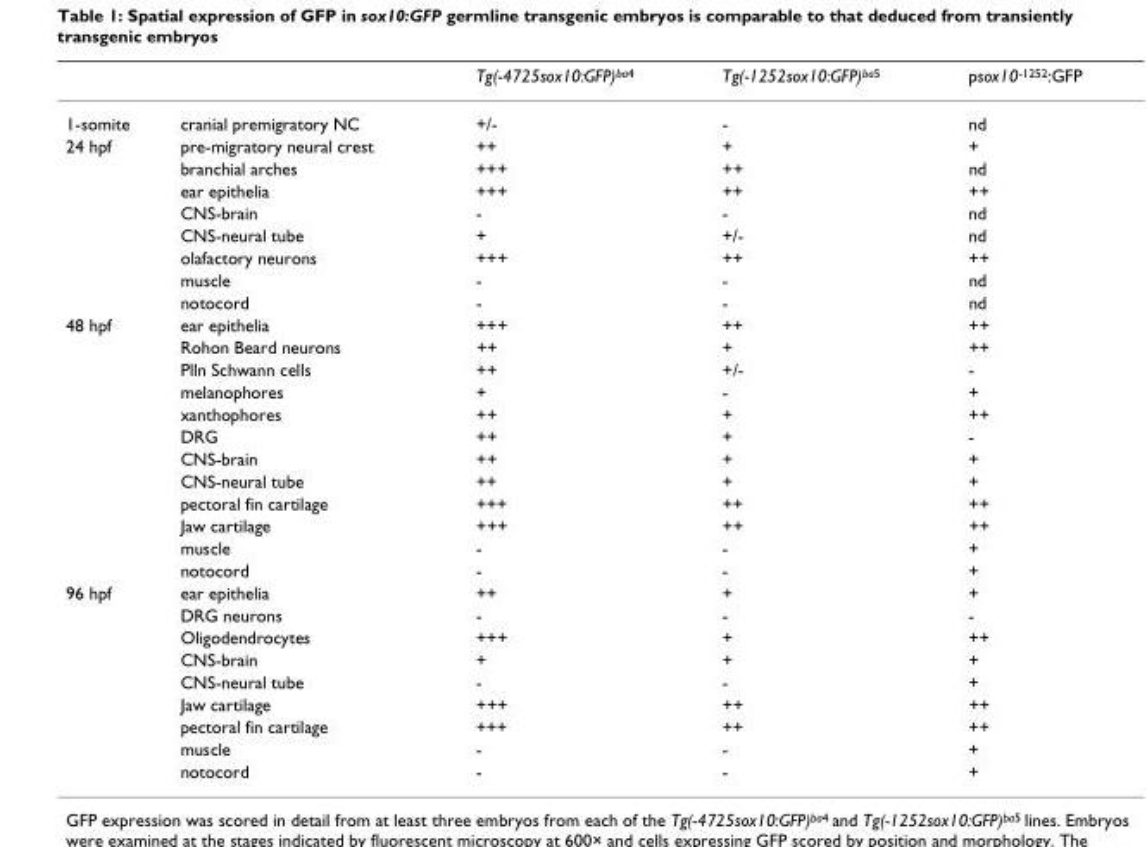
<table><thead><tr><td></td><td></td><td>Tg(-4725sox10:GFP)<sup>ba4</sup></td><td>Tg(-1252sox10:GFP)<sup>ba5</sup></td><td>psox10<sup>-1252</sup>:GFP</td></tr></thead><tbody><tr><td>1-somite</td><td>cranial premigratory NC</td><td>+/-</td><td>-</td><td>nd</td></tr><tr><td rowspan="8">24 hpf</td><td>pre-migratory neural crest</td><td>++</td><td>+</td><td>+</td></tr><tr><td>branchial arches</td><td>+++</td><td>++</td><td>nd</td></tr><tr><td>ear epithelia</td><td>+++</td><td>++</td><td>++</td></tr><tr><td>CNS-brain</td><td>-</td><td>-</td><td>nd</td></tr><tr><td>CNS-neural tube</td><td>+</td><td>+/-</td><td>nd</td></tr><tr><td>olafactory neurons</td><td>+++</td><td>++</td><td>++</td></tr><tr><td>muscle</td><td>-</td><td>-</td><td>nd</td></tr><tr><td>notocord</td><td>-</td><td>-</td><td>nd</td></tr><tr><td rowspan="12">48 hpf</td><td>ear epithelia</td><td>+++</td><td>++</td><td>++</td></tr><tr><td>Rohon Beard neurons</td><td>++</td><td>+</td><td>++</td></tr><tr><td>Plln Schwann cells</td><td>++</td><td>+/-</td><td>-</td></tr><tr><td>melanophores</td><td>+</td><td>-</td><td>+</td></tr><tr><td>xanthophores</td><td>++</td><td>+</td><td>++</td></tr><tr><td>DRG</td><td>++</td><td>+</td><td>-</td></tr><tr><td>CNS-brain</td><td>++</td><td>+</td><td>+</td></tr><tr><td>CNS-neural tube</td><td>++</td><td>+</td><td>+</td></tr><tr><td>pectoral fin cartilage</td><td>+++</td><td>++</td><td>++</td></tr><tr><td>Jaw cartilage</td><td>+++</td><td>++</td><td>++</td></tr><tr><td>muscle</td><td>-</td><td>-</td><td>+</td></tr><tr><td>notocord</td><td>-</td><td>-</td><td>+</td></tr><tr><td rowspan="9">96 hpf</td><td>ear epithelia</td><td>++</td><td>+</td><td>+</td></tr><tr><td>DRG neurons</td><td>-</td><td>-</td><td>-</td></tr><tr><td>Oligodendrocytes</td><td>+++</td><td>+</td><td>++</td></tr><tr><td>CNS-brain</td><td>+</td><td>+</td><td>+</td></tr><tr><td>CNS-neural tube</td><td>-</td><td>-</td><td>+</td></tr><tr><td>Jaw cartilage</td><td>+++</td><td>++</td><td>++</td></tr><tr><td>pectoral fin cartilage</td><td>+++</td><td>++</td><td>++</td></tr><tr><td>muscle</td><td>-</td><td>-</td><td>+</td></tr><tr><td>notocord</td><td>-</td><td>-</td><td>+</td></tr></tbody></table>